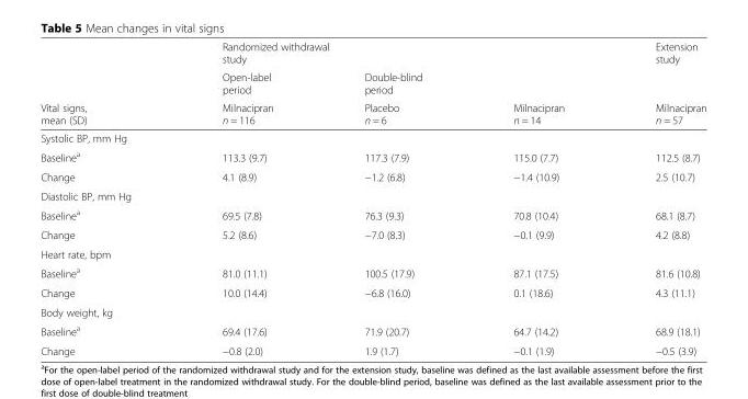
<table><thead><tr><td rowspan="3">Vital signs, mean (SD)</td><td colspan="3">Randomized withdrawal study</td><td rowspan="3">Extension study Milnacipran n = 57</td></tr><tr><td rowspan="2">Open-label period Milnacipran n = 116</td><td rowspan="2">Double-blind period Placebo n = 6</td><td rowspan="2">Milnacipran n = 14</td></tr><tr></tr></thead><tbody><tr><td colspan="5">Systolic BP, mm Hg</td></tr><tr><td>Baseline<sup>a</sup></td><td>113.3 (9.7)</td><td>117.3 (7.9)</td><td>115.0 (7.7)</td><td>112.5 (8.7)</td></tr><tr><td>Change</td><td>4.1 (8.9)</td><td>−1.2 (6.8)</td><td>−1.4 (10.9)</td><td>2.5 (10.7)</td></tr><tr><td colspan="5">Diastolic BP, mm Hg</td></tr><tr><td>Baseline<sup>a</sup></td><td>69.5 (7.8)</td><td>76.3 (9.3)</td><td>70.8 (10.4)</td><td>68.1 (8.7)</td></tr><tr><td>Change</td><td>5.2 (8.6)</td><td>−7.0 (8.3)</td><td>−0.1 (9.9)</td><td>4.2 (8.8)</td></tr><tr><td colspan="5">Heart rate, bpm</td></tr><tr><td>Baseline<sup>a</sup></td><td>81.0 (11.1)</td><td>100.5 (17.9)</td><td>87.1 (17.5)</td><td>81.6 (10.8)</td></tr><tr><td>Change</td><td>10.0 (14.4)</td><td>−6.8 (16.0)</td><td>0.1 (18.6)</td><td>4.3 (11.1)</td></tr><tr><td colspan="5">Body weight, kg</td></tr><tr><td>Baseline<sup>a</sup></td><td>69.4 (17.6)</td><td>71.9 (20.7)</td><td>64.7 (14.2)</td><td>68.9 (18.1)</td></tr><tr><td>Change</td><td>−0.8 (2.0)</td><td>1.9 (1.7)</td><td>−0.1 (1.9)</td><td>−0.5 (3.9)</td></tr></tbody></table>